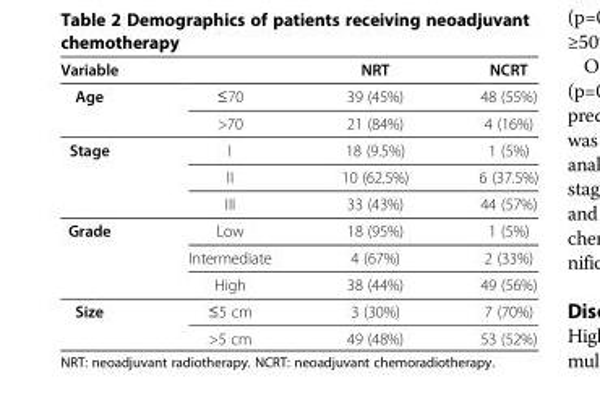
<table><thead><tr><td>Variable</td><td></td><td>NRT</td><td>NCRT</td></tr></thead><tbody><tr><td rowspan="2">Age</td><td>≤70</td><td>39 (45%)</td><td>48 (55%)</td></tr><tr><td>&gt;70</td><td>21 (84%)</td><td>4 (16%)</td></tr><tr><td rowspan="3">Stage</td><td>I</td><td>18 (9.5%)</td><td>1 (5%)</td></tr><tr><td>II</td><td>10 (62.5%)</td><td>6 (37.5%)</td></tr><tr><td>III</td><td>33 (43%)</td><td>44 (57%)</td></tr><tr><td rowspan="3">Grade</td><td>Low</td><td>18 (95%)</td><td>1 (5%)</td></tr><tr><td>Intermediate</td><td>4 (67%)</td><td>2 (33%)</td></tr><tr><td>High</td><td>38 (44%)</td><td>49 (56%)</td></tr><tr><td rowspan="2">Size</td><td>≤5 cm</td><td>3 (30%)</td><td>7 (70%)</td></tr><tr><td>&gt;5 cm</td><td>49 (48%)</td><td>53 (52%)</td></tr></tbody></table>